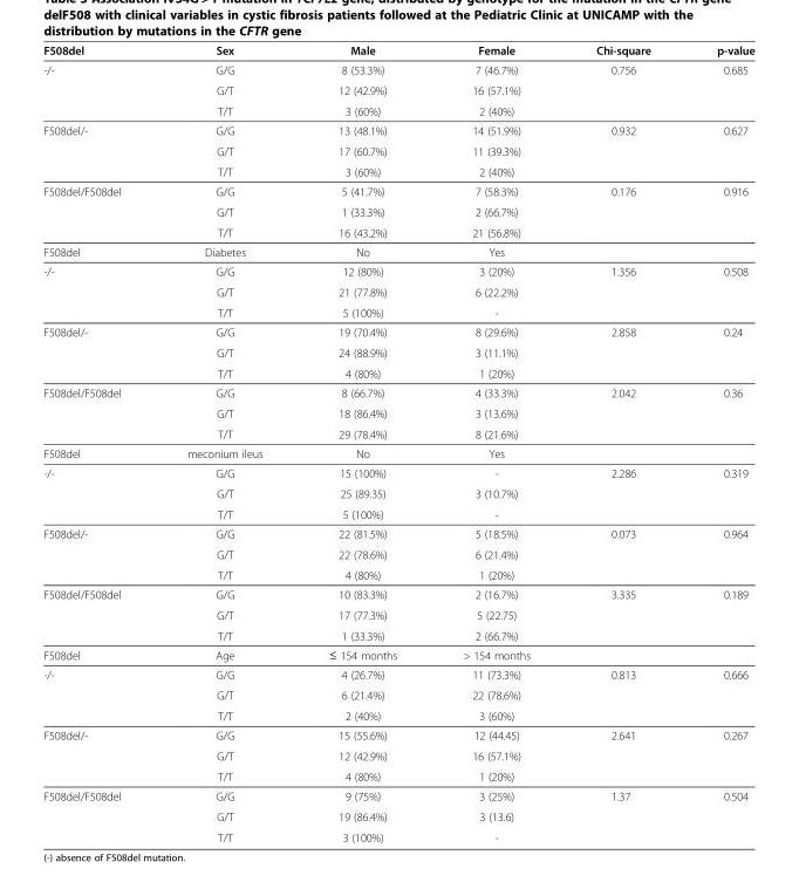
<table><thead><tr><td>F508del</td><td>Sex</td><td>Male</td><td>Female</td><td>Chi-square</td><td>p-value</td></tr></thead><tbody><tr><td rowspan="3">-/-</td><td>G/G</td><td>8 (53.3%)</td><td>7 (46.7%)</td><td>0.756</td><td>0.685</td></tr><tr><td>G/T</td><td>12 (42.9%)</td><td>16 (57.1%)</td><td></td><td></td></tr><tr><td>T/T</td><td>3 (60%)</td><td>2 (40%)</td><td></td><td></td></tr><tr><td rowspan="3">F508del/-</td><td>G/G</td><td>13 (48.1%)</td><td>14 (51.9%)</td><td>0.932</td><td>0.627</td></tr><tr><td>G/T</td><td>17 (60.7%)</td><td>11 (39.3%)</td><td></td><td></td></tr><tr><td>T/T</td><td>3 (60%)</td><td>2 (40%)</td><td></td><td></td></tr><tr><td rowspan="3">F508del/F508del</td><td>G/G</td><td>5 (41.7%)</td><td>7 (58.3%)</td><td>0.176</td><td>0.916</td></tr><tr><td>G/T</td><td>1 (33.3%)</td><td>2 (66.7%)</td><td></td><td></td></tr><tr><td>T/T</td><td>16 (43.2%)</td><td>21 (56.8%)</td><td></td><td></td></tr><tr><td>F508del</td><td>Diabetes</td><td>No</td><td>Yes</td><td></td><td></td></tr><tr><td rowspan="3">-/-</td><td>G/G</td><td>12 (80%)</td><td>3 (20%)</td><td>1.356</td><td>0.508</td></tr><tr><td>G/T</td><td>21 (77.8%)</td><td>6 (22.2%)</td><td></td><td></td></tr><tr><td>T/T</td><td>5 (100%)</td><td>-</td><td></td><td></td></tr><tr><td rowspan="3">F508del/-</td><td>G/G</td><td>19 (70.4%)</td><td>8 (29.6%)</td><td>2.858</td><td>0.24</td></tr><tr><td>G/T</td><td>24 (88.9%)</td><td>3 (11.1%)</td><td></td><td></td></tr><tr><td>T/T</td><td>4 (80%)</td><td>1 (20%)</td><td></td><td></td></tr><tr><td rowspan="3">F508del/F508del</td><td>G/G</td><td>8 (66.7%)</td><td>4 (33.3%)</td><td>2.042</td><td>0.36</td></tr><tr><td>G/T</td><td>18 (86.4%)</td><td>3 (13.6%)</td><td></td><td></td></tr><tr><td>T/T</td><td>29 (78.4%)</td><td>8 (21.6%)</td><td></td><td></td></tr><tr><td>F508del</td><td>meconium ileus</td><td>No</td><td>Yes</td><td></td><td></td></tr><tr><td rowspan="3">-/-</td><td>G/G</td><td>15 (100%)</td><td>-</td><td>2.286</td><td>0.319</td></tr><tr><td>G/T</td><td>25 (89.35)</td><td>3 (10.7%)</td><td></td><td></td></tr><tr><td>T/T</td><td>5 (100%)</td><td>-</td><td></td><td></td></tr><tr><td rowspan="3">F508del/-</td><td>G/G</td><td>22 (81.5%)</td><td>5 (18.5%)</td><td>0.073</td><td>0.964</td></tr><tr><td>G/T</td><td>22 (78.6%)</td><td>6 (21.4%)</td><td></td><td></td></tr><tr><td>T/T</td><td>4 (80%)</td><td>1 (20%)</td><td></td><td></td></tr><tr><td rowspan="3">F508del/F508del</td><td>G/G</td><td>10 (83.3%)</td><td>2 (16.7%)</td><td>3.335</td><td>0.189</td></tr><tr><td>G/T</td><td>17 (77.3%)</td><td>5 (22.75)</td><td></td><td></td></tr><tr><td>T/T</td><td>1 (33.3%)</td><td>2 (66.7%)</td><td></td><td></td></tr><tr><td>F508del</td><td>Age</td><td>≤ 154 months</td><td>&gt; 154 months</td><td></td><td></td></tr><tr><td rowspan="3">-/-</td><td>G/G</td><td>4 (26.7%)</td><td>11 (73.3%)</td><td>0.813</td><td>0.666</td></tr><tr><td>G/T</td><td>6 (21.4%)</td><td>22 (78.6%)</td><td></td><td></td></tr><tr><td>T/T</td><td>2 (40%)</td><td>3 (60%)</td><td></td><td></td></tr><tr><td rowspan="3">F508del/-</td><td>G/G</td><td>15 (55.6%)</td><td>12 (44.45)</td><td>2.641</td><td>0.267</td></tr><tr><td>G/T</td><td>12 (42.9%)</td><td>16 (57.1%)</td><td></td><td></td></tr><tr><td>T/T</td><td>4 (80%)</td><td>1 (20%)</td><td></td><td></td></tr><tr><td rowspan="3">F508del/F508del</td><td>G/G</td><td>9 (75%)</td><td>3 (25%)</td><td>1.37</td><td>0.504</td></tr><tr><td>G/T</td><td>19 (86.4%)</td><td>3 (13.6)</td><td></td><td></td></tr><tr><td>T/T</td><td>3 (100%)</td><td>-</td><td></td><td></td></tr></tbody></table>